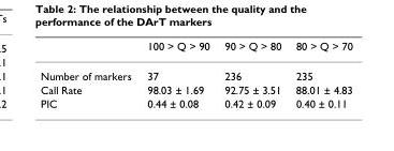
<table><thead><tr><td></td><td>100 &gt; Q &gt; 90</td><td>90 &gt; Q &gt; 80</td><td>80 &gt; Q &gt; 70</td></tr></thead><tbody><tr><td>Number of markers</td><td>37</td><td>236</td><td>235</td></tr><tr><td>Call Rate</td><td>98.03 ± 1.69</td><td>92.75 ± 3.51</td><td>88.01 ± 4.83</td></tr><tr><td>PIC</td><td>0.44 ± 0.08</td><td>0.42 ± 0.09</td><td>0.40 ± 0.11</td></tr></tbody></table>